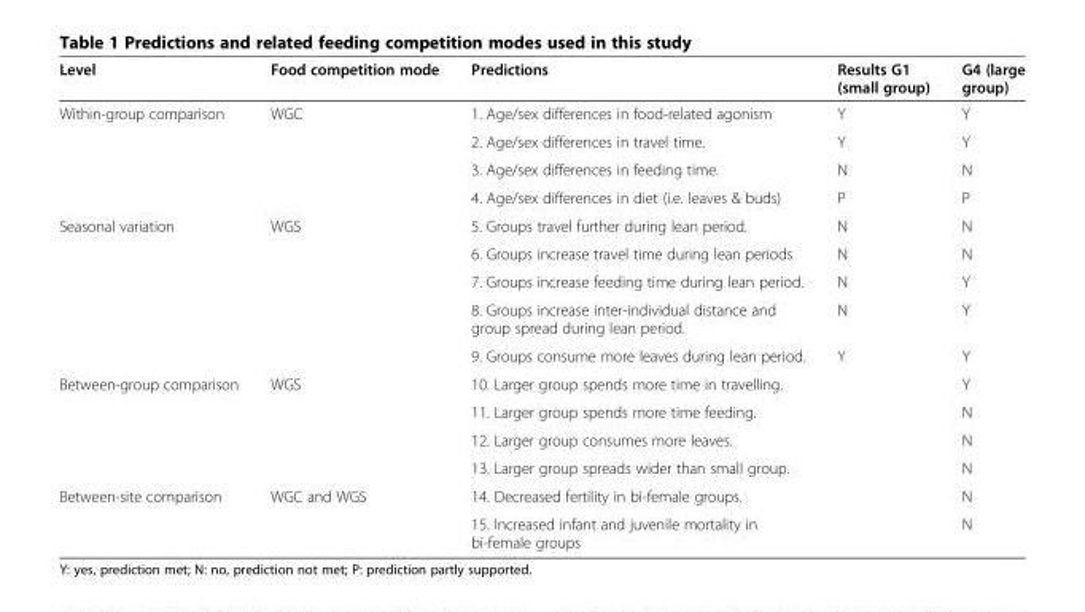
<table><thead><tr><td>Level</td><td>Food competition mode</td><td>Predictions</td><td>Results G1 (small group)</td><td>G4 (large group)</td></tr></thead><tbody><tr><td rowspan="4">Within-group comparison</td><td>WGC</td><td>1. Age/sex differences in food-related agonism</td><td>Y</td><td>Y</td></tr><tr><td></td><td>2. Age/sex differences in travel time.</td><td>Y</td><td>Y</td></tr><tr><td></td><td>3. Age/sex differences in feeding time.</td><td>N</td><td>N</td></tr><tr><td></td><td>4. Age/sex differences in diet (i.e. leaves &amp; buds)</td><td>P</td><td>P</td></tr><tr><td rowspan="5">Seasonal variation</td><td>WGS</td><td>5. Groups travel further during lean period.</td><td>N</td><td>N</td></tr><tr><td></td><td>6. Groups increase travel time during lean periods</td><td>N</td><td>N</td></tr><tr><td></td><td>7. Groups increase feeding time during lean period.</td><td>N</td><td>Y</td></tr><tr><td></td><td>8. Groups increase inter-individual distance and group spread during lean period.</td><td>N</td><td>Y</td></tr><tr><td></td><td>9. Groups consume more leaves during lean period.</td><td>Y</td><td>Y</td></tr><tr><td rowspan="4">Between-group comparison</td><td>WGS</td><td>10. Larger group spends more time in travelling.</td><td></td><td>Y</td></tr><tr><td></td><td>11. Larger group spends more time feeding.</td><td></td><td>N</td></tr><tr><td></td><td>12. Larger group consumes more leaves.</td><td></td><td>N</td></tr><tr><td></td><td>13. Larger group spreads wider than small group.</td><td></td><td>N</td></tr><tr><td rowspan="2">Between-site comparison</td><td>WGC and WGS</td><td>14. Decreased fertility in bi-female groups.</td><td></td><td>N</td></tr><tr><td></td><td>15. Increased infant and juvenile mortality in bi-female groups</td><td></td><td>N</td></tr></tbody></table>